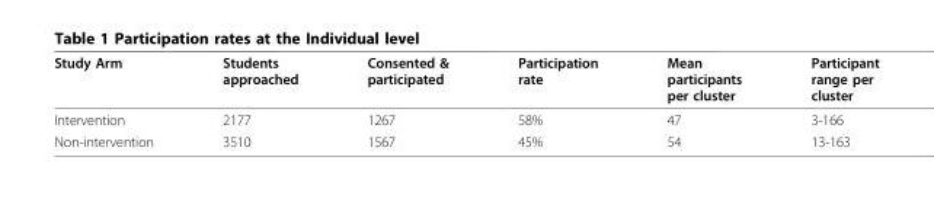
<table><thead><tr><td>Study Arm</td><td>Students approached</td><td>Consented &amp; participated</td><td>Participation rate</td><td>Mean participants per cluster</td><td>Participant range per cluster</td></tr></thead><tbody><tr><td>Intervention</td><td>2177</td><td>1267</td><td>58%</td><td>47</td><td>3-166</td></tr><tr><td>Non-intervention</td><td>3510</td><td>1567</td><td>45%</td><td>54</td><td>13-163</td></tr></tbody></table>